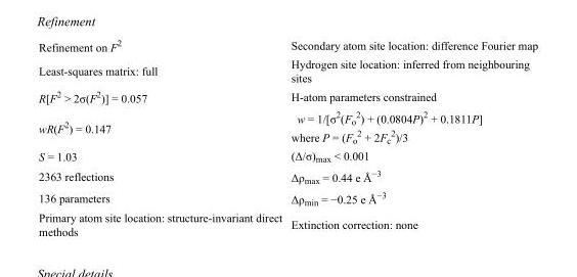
<table><tbody><tr><td>Refinement on F<sup>2</sup></td><td>Secondary atom site location: difference Fourier map</td></tr><tr><td>Least-squares matrix: full</td><td>Hydrogen site location: inferred from neighbouring sites</td></tr><tr><td>R[F<sup>2</sup> &gt; 2σ(F<sup>2</sup>)] = 0.057</td><td>H-atom parameters constrained</td></tr><tr><td>wR(F<sup>2</sup>) = 0.147</td><td>w = 1/[σ<sup>2</sup>(F<sub>o</sub> <sup>2</sup>) + (0.0804P)<sup>2</sup> + 0.1811P] where P = (F<sub>o</sub> <sup>2</sup> + 2F<sub>c</sub> <sup>2</sup>)/3</td></tr><tr><td>S = 1.03</td><td>(Δ/σ)<sub>max</sub> &lt; 0.001</td></tr><tr><td>2363 reflections</td><td>Δρ<sub>max</sub> = 0.44 e Å<sup>−3</sup></td></tr><tr><td>136 parameters</td><td>Δρ<sub>min</sub> = −0.25 e Å<sup>−3</sup></td></tr><tr><td>Primary atom site location: structure-invariant direct methods</td><td>Extinction correction: none</td></tr></tbody></table>